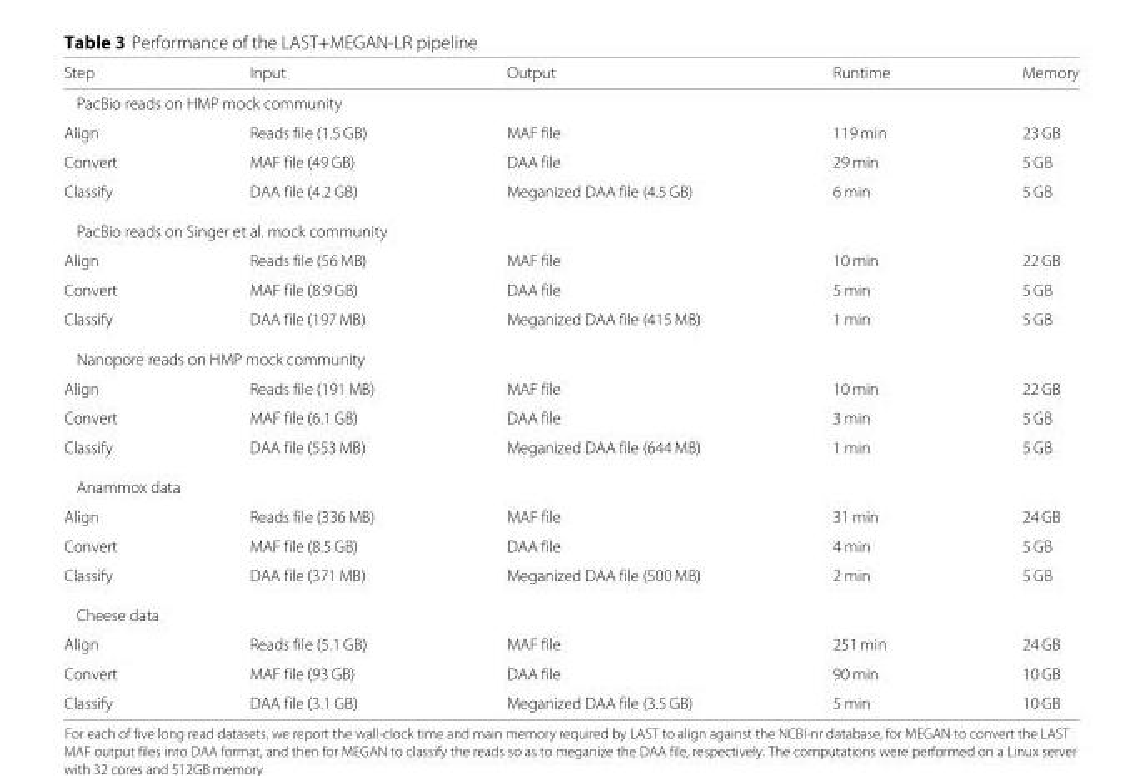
<table><thead><tr><td>Step</td><td>Input</td><td>Output</td><td>Runtime</td><td>Memory</td></tr></thead><tbody><tr><td colspan="5">PacBio reads on HMP mock community</td></tr><tr><td>Align</td><td>Reads file (1.5 GB)</td><td>MAF file</td><td>119 min</td><td>23 GB</td></tr><tr><td>Convert</td><td>MAF file (49 GB)</td><td>DAA file</td><td>29 min</td><td>5 GB</td></tr><tr><td>Classify</td><td>DAA file (4.2 GB)</td><td>Meganized DAA file (4.5 GB)</td><td>6 min</td><td>5 GB</td></tr><tr><td colspan="5">PacBio reads on Singer et al. mock community</td></tr><tr><td>Align</td><td>Reads file (56 MB)</td><td>MAF file</td><td>10 min</td><td>22 GB</td></tr><tr><td>Convert</td><td>MAF file (8.9 GB)</td><td>DAA file</td><td>5 min</td><td>5 GB</td></tr><tr><td>Classify</td><td>DAA file (197 MB)</td><td>Meganized DAA file (415 MB)</td><td>1 min</td><td>5 GB</td></tr><tr><td colspan="5">Nanopore reads on HMP mock community</td></tr><tr><td>Align</td><td>Reads file (191 MB)</td><td>MAF file</td><td>10 min</td><td>22 GB</td></tr><tr><td>Convert</td><td>MAF file (6.1 GB)</td><td>DAA file</td><td>3 min</td><td>5 GB</td></tr><tr><td>Classify</td><td>DAA file (553 MB)</td><td>Meganized DAA file (644 MB)</td><td>1 min</td><td>5 GB</td></tr><tr><td colspan="5">Anammox data</td></tr><tr><td>Align</td><td>Reads file (336 MB)</td><td>MAF file</td><td>31 min</td><td>24 GB</td></tr><tr><td>Convert</td><td>MAF file (8.5 GB)</td><td>DAA file</td><td>4 min</td><td>5 GB</td></tr><tr><td>Classify</td><td>DAA file (371 MB)</td><td>Meganized DAA file (500 MB)</td><td>2 min</td><td>5 GB</td></tr><tr><td colspan="5">Cheese data</td></tr><tr><td>Align</td><td>Reads file (5.1 GB)</td><td>MAF file</td><td>251 min</td><td>24 GB</td></tr><tr><td>Convert</td><td>MAF file (93 GB)</td><td>DAA file</td><td>90 min</td><td>10 GB</td></tr><tr><td>Classify</td><td>DAA file (3.1 GB)</td><td>Meganized DAA file (3.5 GB)</td><td>5 min</td><td>10 GB</td></tr></tbody></table>